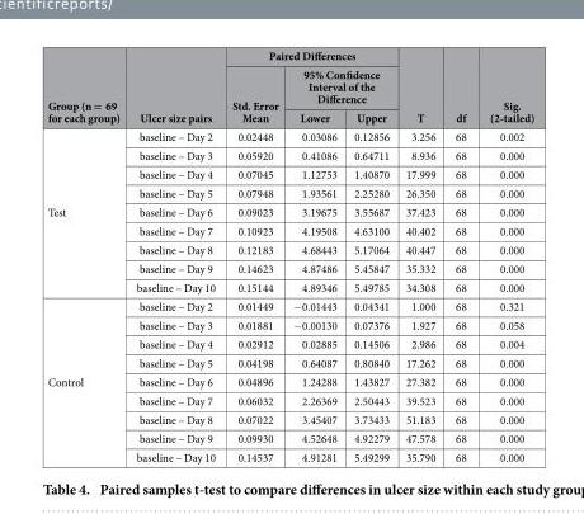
<table><thead><tr><td rowspan="3">Group (n = 69 for each group)</td><td rowspan="3">Ulcer size pairs</td><td colspan="3">Paired Differences</td><td rowspan="3">T</td><td rowspan="3">df</td><td rowspan="3">Sig. (2-tailed)</td></tr><tr><td rowspan="2">Std. Error Mean</td><td colspan="2">95% Confidence Interval of the Difference</td></tr><tr><td>Lower</td><td>Upper</td></tr></thead><tbody><tr><td rowspan="9">Test</td><td>baseline – Day 2</td><td>0.02448</td><td>0.03086</td><td>0.12856</td><td>3.256</td><td>68</td><td>0.002</td></tr><tr><td>baseline – Day 3</td><td>0.05920</td><td>0.41086</td><td>0.64711</td><td>8.936</td><td>68</td><td>0.000</td></tr><tr><td>baseline – Day 4</td><td>0.07045</td><td>1.12753</td><td>1.40870</td><td>17.999</td><td>68</td><td>0.000</td></tr><tr><td>baseline – Day 5</td><td>0.07948</td><td>1.93561</td><td>2.25280</td><td>26.350</td><td>68</td><td>0.000</td></tr><tr><td>baseline – Day 6</td><td>0.09023</td><td>3.19675</td><td>3.55687</td><td>37.423</td><td>68</td><td>0.000</td></tr><tr><td>baseline – Day 7</td><td>0.10923</td><td>4.19508</td><td>4.63100</td><td>40.402</td><td>68</td><td>0.000</td></tr><tr><td>baseline – Day 8</td><td>0.12183</td><td>4.68443</td><td>5.17064</td><td>40.447</td><td>68</td><td>0.000</td></tr><tr><td>baseline – Day 9</td><td>0.14623</td><td>4.87486</td><td>5.45847</td><td>35.332</td><td>68</td><td>0.000</td></tr><tr><td>baseline – Day 10</td><td>0.15144</td><td>4.89346</td><td>5.49785</td><td>34.308</td><td>68</td><td>0.000</td></tr><tr><td rowspan="9">Control</td><td>baseline – Day 2</td><td>0.01449</td><td>− 0.01443</td><td>0.04341</td><td>1.000</td><td>68</td><td>0.321</td></tr><tr><td>baseline – Day 3</td><td>0.01881</td><td>− 0.00130</td><td>0.07376</td><td>1.927</td><td>68</td><td>0.058</td></tr><tr><td>baseline – Day 4</td><td>0.02912</td><td>0.02885</td><td>0.14506</td><td>2.986</td><td>68</td><td>0.004</td></tr><tr><td>baseline – Day 5</td><td>0.04198</td><td>0.64087</td><td>0.80840</td><td>17.262</td><td>68</td><td>0.000</td></tr><tr><td>baseline – Day 6</td><td>0.04896</td><td>1.24288</td><td>1.43827</td><td>27.382</td><td>68</td><td>0.000</td></tr><tr><td>baseline – Day 7</td><td>0.06032</td><td>2.26369</td><td>2.50443</td><td>39.523</td><td>68</td><td>0.000</td></tr><tr><td>baseline – Day 8</td><td>0.07022</td><td>3.45407</td><td>3.73433</td><td>51.183</td><td>68</td><td>0.000</td></tr><tr><td>baseline – Day 9</td><td>0.09930</td><td>4.52648</td><td>4.92279</td><td>47.578</td><td>68</td><td>0.000</td></tr><tr><td>baseline – Day 10</td><td>0.14537</td><td>4.91281</td><td>5.49299</td><td>35.790</td><td>68</td><td>0.000</td></tr></tbody></table>